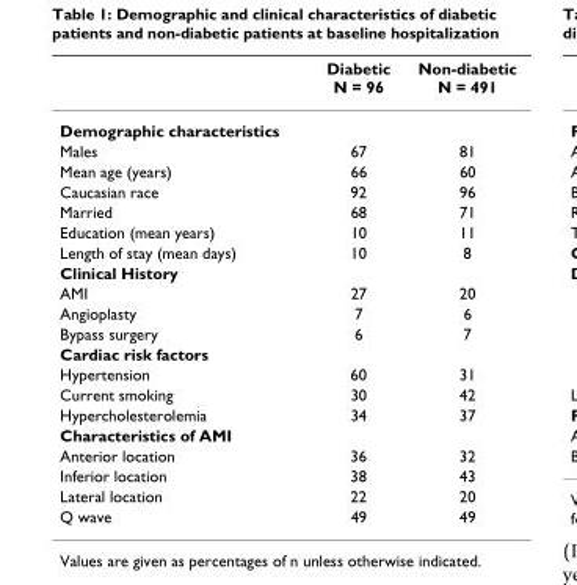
<table><thead><tr><td></td><td>Diabetic N = 96</td><td>Non-diabetic N = 491</td></tr></thead><tbody><tr><td colspan="3">Demographic characteristics</td></tr><tr><td>Males</td><td>67</td><td>81</td></tr><tr><td>Mean age (years)</td><td>66</td><td>60</td></tr><tr><td>Caucasian race</td><td>92</td><td>96</td></tr><tr><td>Married</td><td>68</td><td>71</td></tr><tr><td>Education (mean years)</td><td>10</td><td>11</td></tr><tr><td>Length of stay (mean days)</td><td>10</td><td>8</td></tr><tr><td colspan="3">Clinical History</td></tr><tr><td>AMI</td><td>27</td><td>20</td></tr><tr><td>Angioplasty</td><td>7</td><td>6</td></tr><tr><td>Bypass surgery</td><td>6</td><td>7</td></tr><tr><td colspan="3">Cardiac risk factors</td></tr><tr><td>Hypertension</td><td>60</td><td>31</td></tr><tr><td>Current smoking</td><td>30</td><td>42</td></tr><tr><td>Hypercholesterolemia</td><td>34</td><td>37</td></tr><tr><td colspan="3">Characteristics of AMI</td></tr><tr><td>Anterior location</td><td>36</td><td>32</td></tr><tr><td>Inferior location</td><td>38</td><td>43</td></tr><tr><td>Lateral location</td><td>22</td><td>20</td></tr><tr><td>Q wave</td><td>49</td><td>49</td></tr></tbody></table>